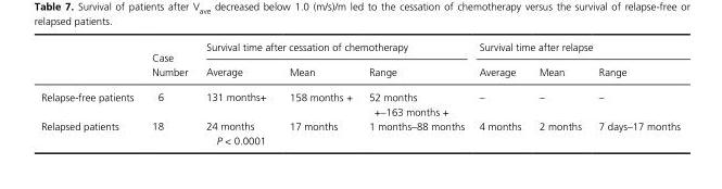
<table><thead><tr><td rowspan="2"></td><td rowspan="2">Case Number</td><td colspan="3">Survival time after cessation of chemotherapy</td><td colspan="3">Survival time after relapse</td></tr><tr><td>Average</td><td>Mean</td><td>Range</td><td>Average</td><td>Mean</td><td>Range</td></tr></thead><tbody><tr><td>Relapse- free patients</td><td>6</td><td>131 months+</td><td>158 months +</td><td>52 months +–163 months +</td><td>–</td><td>–</td><td>–</td></tr><tr><td rowspan="2">Relapsed patients</td><td>18</td><td>24 months</td><td>17 months</td><td>1 months–88 months</td><td>4 months</td><td>2 months</td><td>7 days–17 months</td></tr><tr><td></td><td>P &lt; 0.0001</td><td></td><td></td><td></td><td></td><td></td></tr></tbody></table>